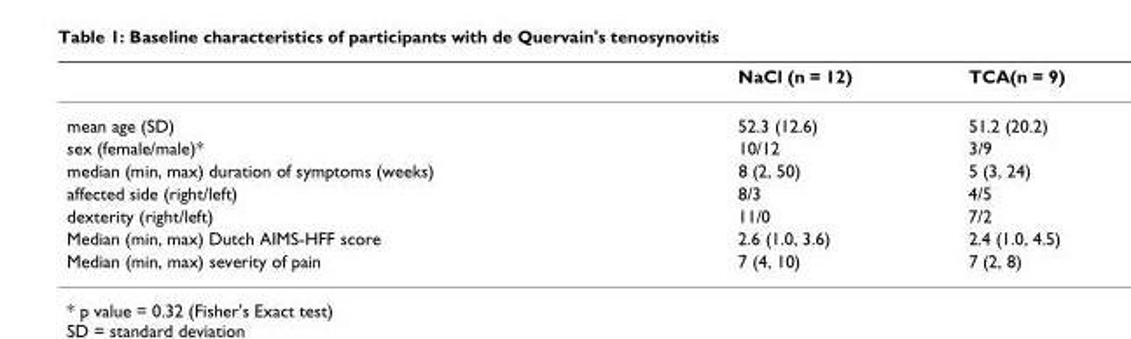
<table><thead><tr><td></td><td>NaCl (n = 12)</td><td>TCA(n = 9)</td></tr></thead><tbody><tr><td>mean age (SD)</td><td>52.3 (12.6)</td><td>51.2 (20.2)</td></tr><tr><td>sex (female/male)*</td><td>10/12</td><td>3/9</td></tr><tr><td>median (min, max) duration of symptoms (weeks)</td><td>8 (2, 50)</td><td>5 (3, 24)</td></tr><tr><td>affected side (right/left)</td><td>8/3</td><td>4/5</td></tr><tr><td>dexterity (right/left)</td><td>11/0</td><td>7/2</td></tr><tr><td>Median (min, max) Dutch AIMS-HFF score</td><td>2.6 (1.0, 3.6)</td><td>2.4 (1.0, 4.5)</td></tr><tr><td>Median (min, max) severity of pain</td><td>7 (4, 10)</td><td>7 (2, 8)</td></tr></tbody></table>